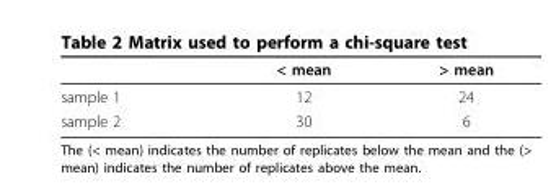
<table><thead><tr><td></td><td>&lt; mean</td><td>&gt; mean</td></tr></thead><tbody><tr><td>sample 1</td><td>12</td><td>24</td></tr><tr><td>sample 2</td><td>30</td><td>6</td></tr></tbody></table>